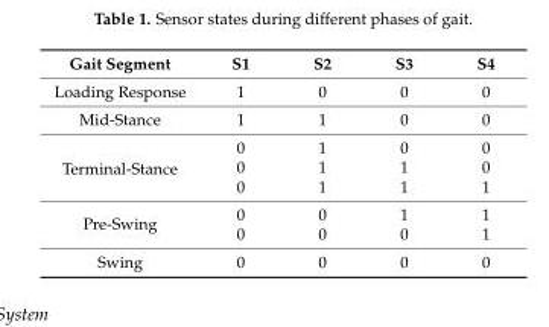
<table><thead><tr><td>Gait Segment</td><td>S1</td><td>S2</td><td>S3</td><td>S4</td></tr></thead><tbody><tr><td>Loading Response</td><td>1</td><td>0</td><td>0</td><td>0</td></tr><tr><td>Mid-Stance</td><td>1</td><td>1</td><td>0</td><td>0</td></tr><tr><td rowspan="3">Terminal-Stance</td><td>0</td><td>1</td><td>0</td><td>0</td></tr><tr><td>0</td><td>1</td><td>1</td><td>0</td></tr><tr><td>0</td><td>1</td><td>1</td><td>1</td></tr><tr><td rowspan="2">Pre-Swing</td><td>0</td><td>0</td><td>1</td><td>1</td></tr><tr><td>0</td><td>0</td><td>0</td><td>1</td></tr><tr><td>Swing</td><td>0</td><td>0</td><td>0</td><td>0</td></tr></tbody></table>